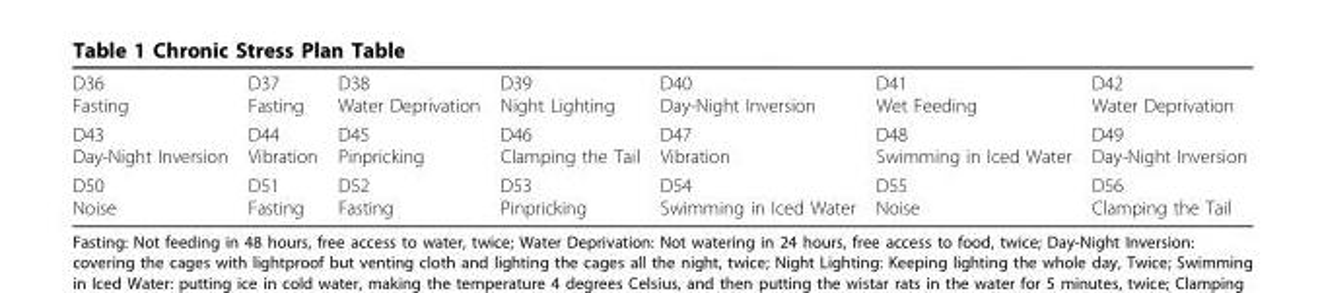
<table><tbody><tr><td>D36 Fasting</td><td>D37 Fasting</td><td>D38 Water Deprivation</td><td>D39 Night Lighting</td><td>D40 Day-Night Inversion</td><td>D41 Wet Feeding</td><td>D42 Water Deprivation</td></tr><tr><td>D43 Day-Night Inversion</td><td>D44 Vibration</td><td>D45 Pinpricking</td><td>D46 Clamping the Tail</td><td>D47 Vibration</td><td>D48 Swimming in Iced Water</td><td>D49 Day-Night Inversion</td></tr><tr><td>D50 Noise</td><td>D51 Fasting</td><td>D52 Fasting</td><td>D53 Pinpricking</td><td>D54 Swimming in Iced Water</td><td>D55 Noise</td><td>D56 Clamping the Tail</td></tr></tbody></table>